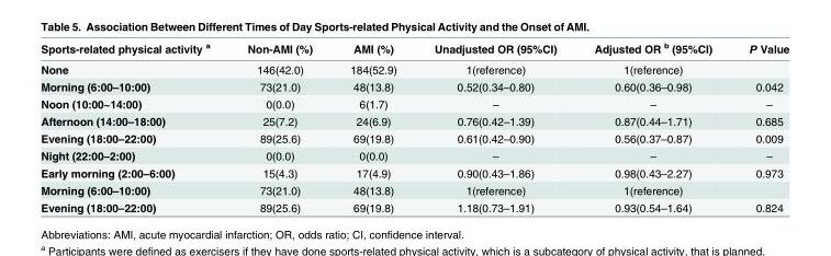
<table><thead><tr><td>Sports-related physical activity <sup>a</sup></td><td>Non-AMI (%)</td><td>AMI (%)</td><td>Unadjusted OR (95%CI)</td><td>Adjusted OR <sup>b</sup> (95%CI)</td><td>P Value</td></tr></thead><tbody><tr><td>None</td><td>146(42.0)</td><td>184(52.9)</td><td>1(reference)</td><td>1(reference)</td><td></td></tr><tr><td>Morning (6:00–10:00)</td><td>73(21.0)</td><td>48(13.8)</td><td>0.52(0.34–0.80)</td><td>0.60(0.36–0.98)</td><td>0.042</td></tr><tr><td>Noon (10:00~14:00)</td><td>0(0.0)</td><td>6(1.7)</td><td>–</td><td>–</td><td>–</td></tr><tr><td>Afternoon (14:00–18:00)</td><td>25(7.2)</td><td>24(6.9)</td><td>0.76(0.42–1.39)</td><td>0.87(0.44–1.71)</td><td>0.685</td></tr><tr><td>Evening (18:00–22:00)</td><td>89(25.6)</td><td>69(19.8)</td><td>0.61(0.42–0.90)</td><td>0.56(0.37–0.87)</td><td>0.009</td></tr><tr><td>Night (22:00–2:00)</td><td>0(0.0)</td><td>0(0.0)</td><td>–</td><td>–</td><td>–</td></tr><tr><td>Early morning (2:00–6:00)</td><td>15(4.3)</td><td>17(4.9)</td><td>0.90(0.43–1.86)</td><td>0.98(0.43–2.27)</td><td>0.973</td></tr><tr><td>Morning (6:00–10:00)</td><td>73(21.0)</td><td>48(13.8)</td><td>1(reference)</td><td>1(reference)</td><td></td></tr><tr><td>Evening (18:00–22:00)</td><td>89(25.6)</td><td>69(19.8)</td><td>1.18(0.73–1.91)</td><td>0.93(0.54–1.64)</td><td>0.824</td></tr></tbody></table>